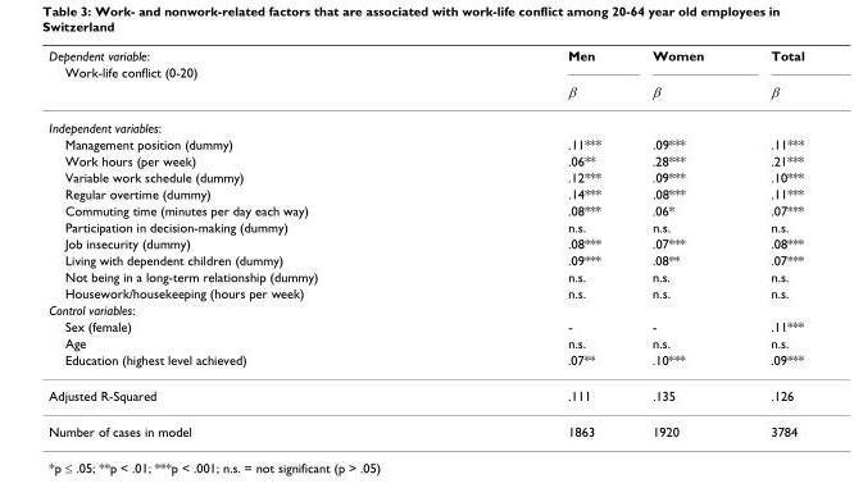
<table><thead><tr><td rowspan="3">Dependent variable: Work-life conflict (0-20)</td><td rowspan="3">Men β</td><td rowspan="3">Women β</td><td rowspan="3">Total β</td></tr><tr></tr><tr></tr></thead><tbody><tr><td colspan="4">Independent variables:</td></tr><tr><td>Management position (dummy)</td><td>.11***</td><td>.09***</td><td>.11***</td></tr><tr><td>Work hours (per week)</td><td>.06**</td><td>.28***</td><td>.21***</td></tr><tr><td>Variable work schedule (dummy)</td><td>.12***</td><td>.09***</td><td>.10***</td></tr><tr><td>Regular overtime (dummy)</td><td>.14***</td><td>.08***</td><td>.11***</td></tr><tr><td>Commuting time (minutes per day each way)</td><td>.08***</td><td>.06*</td><td>.07***</td></tr><tr><td>Participation in decision-making (dummy)</td><td>n.s.</td><td>n.s.</td><td>n.s.</td></tr><tr><td>Job insecurity (dummy)</td><td>.08***</td><td>.07***</td><td>.08***</td></tr><tr><td>Living with dependent children (dummy)</td><td>.09***</td><td>.08**</td><td>.07***</td></tr><tr><td>Not being in a long-term relationship (dummy)</td><td>n.s.</td><td>n.s.</td><td>n.s.</td></tr><tr><td>Housework/housekeeping (hours per week)</td><td>n.s.</td><td>n.s.</td><td>n.s.</td></tr><tr><td colspan="4">Control variables:</td></tr><tr><td>Sex (female)</td><td>-</td><td>-</td><td>.11***</td></tr><tr><td>Age</td><td>n.s.</td><td>n.s.</td><td>n.s.</td></tr><tr><td>Education (highest level achieved)</td><td>.07**</td><td>.10***</td><td>.09***</td></tr><tr><td>Adjusted R-Squared</td><td>.111</td><td>.135</td><td>.126</td></tr><tr><td>Number of cases in model</td><td>1863</td><td>1920</td><td>3784</td></tr></tbody></table>